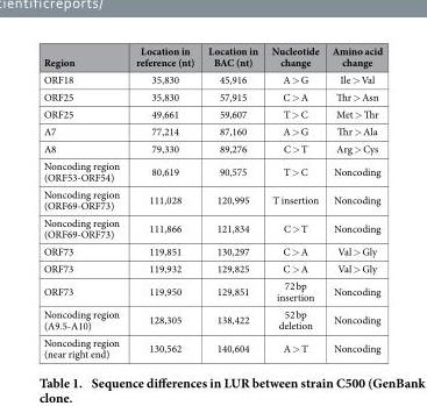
<table><thead><tr><td>Region</td><td>Location in reference (nt)</td><td>Location in BAC (nt)</td><td>Nucleotide change</td><td>Amino acid change</td></tr></thead><tbody><tr><td>ORF18</td><td>35,830</td><td>45,916</td><td>A &gt; G</td><td>Ile &gt; Val</td></tr><tr><td>ORF25</td><td>35,830</td><td>57,915</td><td>C &gt; A</td><td>Thr &gt; Asn</td></tr><tr><td>ORF25</td><td>49,661</td><td>59,607</td><td>T &gt; C</td><td>Met &gt; Thr</td></tr><tr><td>A7</td><td>77,214</td><td>87,160</td><td>A &gt; G</td><td>Thr &gt; Ala</td></tr><tr><td>A8</td><td>79,330</td><td>89,276</td><td>C &gt; T</td><td>Arg &gt; Cys</td></tr><tr><td>Noncoding region (ORF53-ORF54)</td><td>80,619</td><td>90,575</td><td>T &gt; C</td><td>Noncoding</td></tr><tr><td>Noncoding region (ORF69-ORF73)</td><td>111,028</td><td>120,995</td><td>T insertion</td><td>Noncoding</td></tr><tr><td>Noncoding region (ORF69-ORF73)</td><td>111,866</td><td>121,834</td><td>C &gt; T</td><td>Noncoding</td></tr><tr><td>ORF73</td><td>119,851</td><td>130,297</td><td>C &gt; A</td><td>Val &gt; Gly</td></tr><tr><td>ORF73</td><td>119,932</td><td>129,825</td><td>C &gt; A</td><td>Val &gt; Gly</td></tr><tr><td>ORF73</td><td>119,950</td><td>129,851</td><td>72 bp insertion</td><td>Noncoding</td></tr><tr><td>Noncoding region (A9.5-A10)</td><td>128,305</td><td>138,422</td><td>52 bp deletion</td><td>Noncoding</td></tr><tr><td>Noncoding region (near right end)</td><td>130,562</td><td>140,604</td><td>A &gt; T</td><td>Noncoding</td></tr></tbody></table>